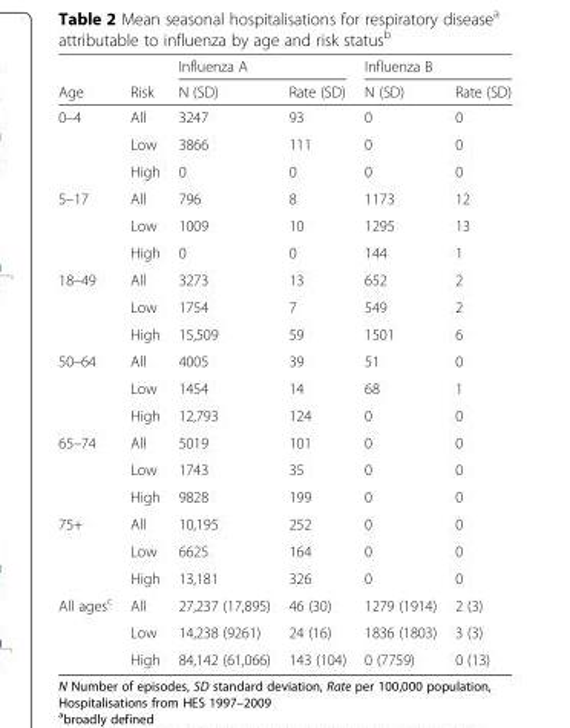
<table><thead><tr><td rowspan="2">Age</td><td rowspan="2">Risk</td><td colspan="2">Influenza A</td><td colspan="2">Influenza B</td></tr><tr><td>N (SD)</td><td>Rate (SD)</td><td>N (SD)</td><td>Rate (SD)</td></tr></thead><tbody><tr><td rowspan="3">0–4</td><td>All</td><td>3247</td><td>93</td><td>0</td><td>0</td></tr><tr><td>Low</td><td>3866</td><td>111</td><td>0</td><td>0</td></tr><tr><td>High</td><td>0</td><td>0</td><td>0</td><td>0</td></tr><tr><td rowspan="3">5–17</td><td>All</td><td>796</td><td>8</td><td>1173</td><td>12</td></tr><tr><td>Low</td><td>1009</td><td>10</td><td>1295</td><td>13</td></tr><tr><td>High</td><td>0</td><td>0</td><td>144</td><td>1</td></tr><tr><td rowspan="3">18–49</td><td>All</td><td>3273</td><td>13</td><td>652</td><td>2</td></tr><tr><td>Low</td><td>1754</td><td>7</td><td>549</td><td>2</td></tr><tr><td>High</td><td>15,509</td><td>59</td><td>1501</td><td>6</td></tr><tr><td rowspan="3">50–64</td><td>All</td><td>4005</td><td>39</td><td>51</td><td>0</td></tr><tr><td>Low</td><td>1454</td><td>14</td><td>68</td><td>1</td></tr><tr><td>High</td><td>12,793</td><td>124</td><td>0</td><td>0</td></tr><tr><td rowspan="3">65–74</td><td>All</td><td>5019</td><td>101</td><td>0</td><td>0</td></tr><tr><td>Low</td><td>1743</td><td>35</td><td>0</td><td>0</td></tr><tr><td>High</td><td>9828</td><td>199</td><td>0</td><td>0</td></tr><tr><td rowspan="3">75+</td><td>All</td><td>10,195</td><td>252</td><td>0</td><td>0</td></tr><tr><td>Low</td><td>6625</td><td>164</td><td>0</td><td>0</td></tr><tr><td>High</td><td>13,181</td><td>326</td><td>0</td><td>0</td></tr><tr><td rowspan="3">All ages<sup>c</sup></td><td>All</td><td>27,237 (17,895)</td><td>46 (30)</td><td>1279 (1914)</td><td>2 (3)</td></tr><tr><td>Low</td><td>14,238 (9261)</td><td>24 (16)</td><td>1836 (1803)</td><td>3 (3)</td></tr><tr><td>High</td><td>84,142 (61,066)</td><td>143 (104)</td><td>0 (7759)</td><td>0 (13)</td></tr></tbody></table>